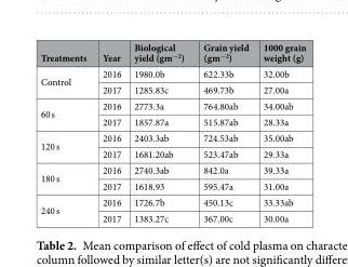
<table><thead><tr><td>Treatments</td><td>Year</td><td>Biological yield (gm<sup>−2</sup>)</td><td>Grain yield (gm<sup>−2</sup>)</td><td>1000 grain weight (g)</td></tr></thead><tbody><tr><td rowspan="2">Control</td><td>2016</td><td>1980.0b</td><td>622.33b</td><td>32.00b</td></tr><tr><td>2017</td><td>1285.83c</td><td>469.73b</td><td>27.00a</td></tr><tr><td rowspan="2">60 s</td><td>2016</td><td>2773.3a</td><td>764.80ab</td><td>34.00ab</td></tr><tr><td>2017</td><td>1857.87a</td><td>515.87ab</td><td>28.33a</td></tr><tr><td rowspan="2">120 s</td><td>2016</td><td>2403.3ab</td><td>724.53ab</td><td>35.00ab</td></tr><tr><td>2017</td><td>1681.20ab</td><td>523.47ab</td><td>29.33a</td></tr><tr><td rowspan="2">180 s</td><td>2016</td><td>2740.3ab</td><td>842.0a</td><td>39.33a</td></tr><tr><td>2017</td><td>1618.93</td><td>595.47a</td><td>31.00a</td></tr><tr><td rowspan="2">240 s</td><td>2016</td><td>1726.7b</td><td>450.13c</td><td>33.33ab</td></tr><tr><td>2017</td><td>1383.27c</td><td>367.00c</td><td>30.00a</td></tr></tbody></table>